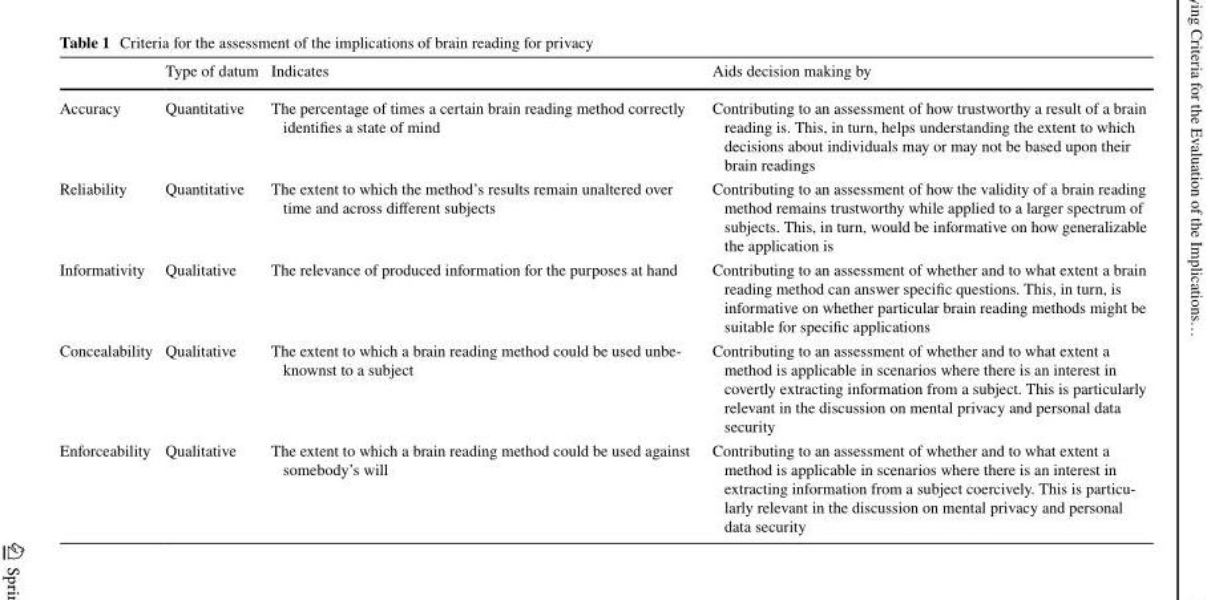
<table><thead><tr><td></td><td>Type of datum</td><td>Indicates</td><td>Aids decision making by</td></tr></thead><tbody><tr><td>Accuracy</td><td>Quantitative</td><td>The percentage of times a certain brain reading method correctly identifies a state of mind</td><td>Contributing to an assessment of how trustworthy a result of a brain reading is. This, in turn, helps understanding the extent to which decisions about individuals may or may not be based upon their brain readings</td></tr><tr><td>Reliability</td><td>Quantitative</td><td>The extent to which the method’s results remain unaltered over time and across different subjects</td><td>Contributing to an assessment of how the validity of a brain reading method remains trustworthy while applied to a larger spectrum of subjects. This, in turn, would be informative on how generalizable the application is</td></tr><tr><td>Informativity</td><td>Qualitative</td><td>The relevance of produced information for the purposes at hand</td><td>Contributing to an assessment of whether and to what extent a brain reading method can answer specific questions. This, in turn, is informative on whether particular brain reading methods might be suitable for specific applications</td></tr><tr><td>Concealability</td><td>Qualitative</td><td>The extent to which a brain reading method could be used unbe- knownst to a subject</td><td>Contributing to an assessment of whether and to what extent a method is applicable in scenarios where there is an interest in covertly extracting information from a subject. This is particularly relevant in the discussion on mental privacy and personal data security</td></tr><tr><td>Enforceability</td><td>Qualitative</td><td>The extent to which a brain reading method could be used against somebody’s will</td><td>Contributing to an assessment of whether and to what extent a method is applicable in scenarios where there is an interest in extracting information from a subject coercively. This is particu- larly relevant in the discussion on mental privacy and personal data security</td></tr></tbody></table>